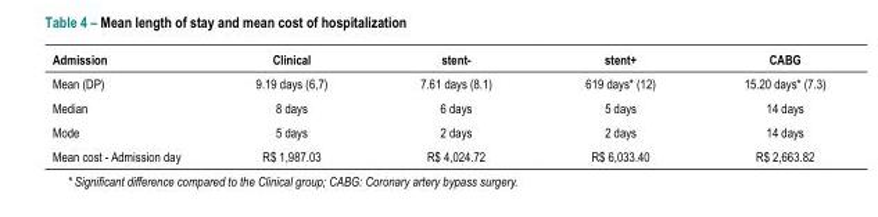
<table><thead><tr><td>Admission</td><td>Clinical</td><td>stent-</td><td>stent+</td><td>CABG</td></tr></thead><tbody><tr><td>Mean (DP)</td><td>9.19 days (6,7)</td><td>7.61 days (8.1)</td><td>619 days* (12)</td><td>15.20 days* (7.3)</td></tr><tr><td>Median</td><td>8 days</td><td>6 days</td><td>5 days</td><td>14 days</td></tr><tr><td>Mode</td><td>5 days</td><td>2 days</td><td>2 days</td><td>14 days</td></tr><tr><td>Mean cost - Admission day</td><td>R$ 1,987.03</td><td>R$ 4,024.72</td><td>R$ 6,033.40</td><td>R$ 2,663.82</td></tr></tbody></table>